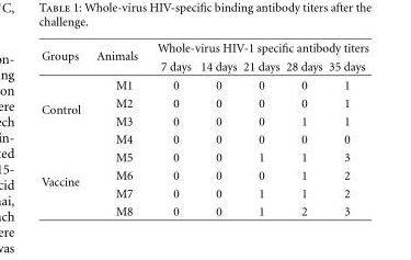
<table><thead><tr><td rowspan="2">Groups</td><td rowspan="2">Animals</td><td colspan="5">Whole-virus HIV-1 specific antibody titers</td></tr><tr><td>7 days</td><td>14 days</td><td>21 days</td><td>28 days</td><td>35 days</td></tr></thead><tbody><tr><td rowspan="4">Control</td><td>M1</td><td>0</td><td>0</td><td>0</td><td>0</td><td>1</td></tr><tr><td>M2</td><td>0</td><td>0</td><td>0</td><td>0</td><td>1</td></tr><tr><td>M3</td><td>0</td><td>0</td><td>0</td><td>1</td><td>1</td></tr><tr><td>M4</td><td>0</td><td>0</td><td>0</td><td>0</td><td>0</td></tr><tr><td rowspan="4">Vaccine</td><td>M5</td><td>0</td><td>0</td><td>1</td><td>1</td><td>3</td></tr><tr><td>M6</td><td>0</td><td>0</td><td>0</td><td>1</td><td>2</td></tr><tr><td>M7</td><td>0</td><td>0</td><td>1</td><td>1</td><td>2</td></tr><tr><td>M8</td><td>0</td><td>0</td><td>1</td><td>2</td><td>3</td></tr></tbody></table>